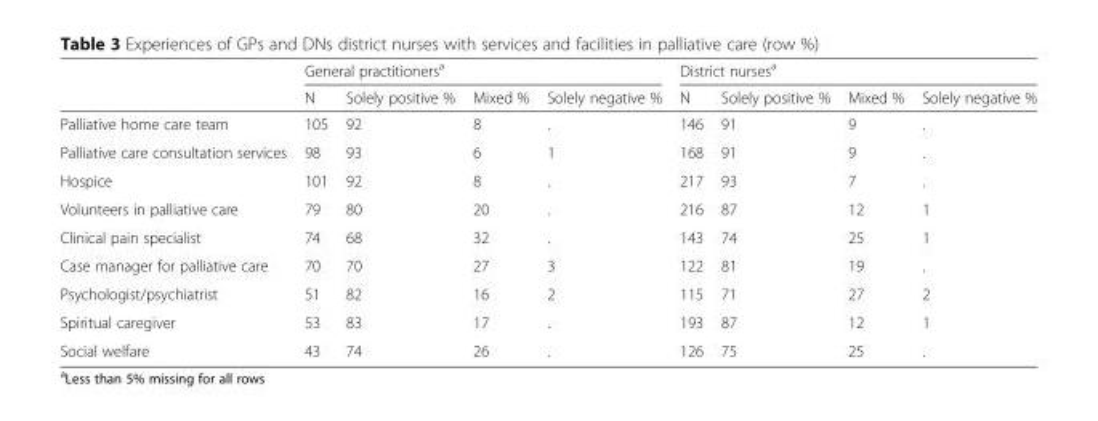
<table><thead><tr><td rowspan="2"></td><td colspan="4">General practitioners<sup>a</sup></td><td colspan="4">District nurses<sup>a</sup></td></tr><tr><td>N</td><td>Solely positive %</td><td>Mixed %</td><td>Solely negative %</td><td>N</td><td>Solely positive %</td><td>Mixed %</td><td>Solely negative %</td></tr></thead><tbody><tr><td>Palliative home care team</td><td>105</td><td>92</td><td>8</td><td>.</td><td>146</td><td>91</td><td>9</td><td>.</td></tr><tr><td>Palliative care consultation services</td><td>98</td><td>93</td><td>6</td><td>1</td><td>168</td><td>91</td><td>9</td><td>.</td></tr><tr><td>Hospice</td><td>101</td><td>92</td><td>8</td><td>.</td><td>217</td><td>93</td><td>7</td><td>.</td></tr><tr><td>Volunteers in palliative care</td><td>79</td><td>80</td><td>20</td><td>.</td><td>216</td><td>87</td><td>12</td><td>1</td></tr><tr><td>Clinical pain specialist</td><td>74</td><td>68</td><td>32</td><td>.</td><td>143</td><td>74</td><td>25</td><td>1</td></tr><tr><td>Case manager for palliative care</td><td>70</td><td>70</td><td>27</td><td>3</td><td>122</td><td>81</td><td>19</td><td>.</td></tr><tr><td>Psychologist/psychiatrist</td><td>51</td><td>82</td><td>16</td><td>2</td><td>115</td><td>71</td><td>27</td><td>2</td></tr><tr><td>Spiritual caregiver</td><td>53</td><td>83</td><td>17</td><td>.</td><td>193</td><td>87</td><td>12</td><td>1</td></tr><tr><td>Social welfare</td><td>43</td><td>74</td><td>26</td><td>.</td><td>126</td><td>75</td><td>25</td><td>.</td></tr></tbody></table>